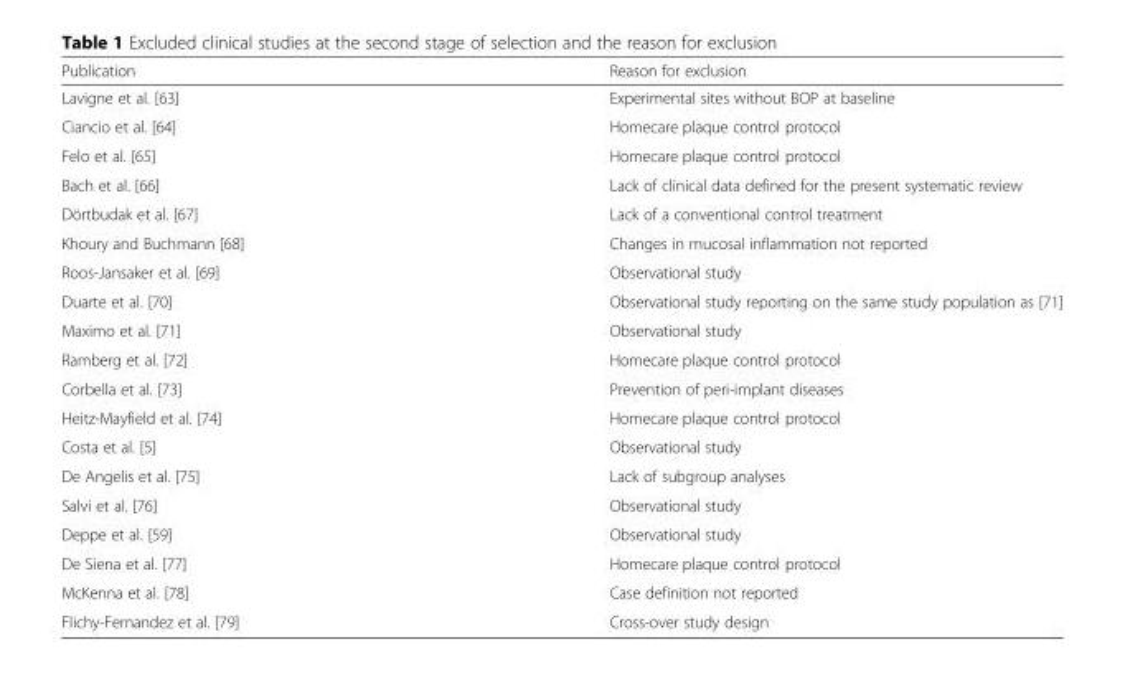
<table><thead><tr><td>Publication</td><td>Reason for exclusion</td></tr></thead><tbody><tr><td>Lavigne et al. [63]</td><td>Experimental sites without BOP at baseline</td></tr><tr><td>Ciancio et al. [64]</td><td>Homecare plaque control protocol</td></tr><tr><td>Felo et al. [65]</td><td>Homecare plaque control protocol</td></tr><tr><td>Bach et al. [66]</td><td>Lack of clinical data defined for the present systematic review</td></tr><tr><td>Dörtbudak et al. [67]</td><td>Lack of a conventional control treatment</td></tr><tr><td>Khoury and Buchmann [68]</td><td>Changes in mucosal inflammation not reported</td></tr><tr><td>Roos-Jansaker et al. [69]</td><td>Observational study</td></tr><tr><td>Duarte et al. [70]</td><td>Observational study reporting on the same study population as [71]</td></tr><tr><td>Maximo et al. [71]</td><td>Observational study</td></tr><tr><td>Ramberg et al. [72]</td><td>Homecare plaque control protocol</td></tr><tr><td>Corbella et al. [73]</td><td>Prevention of peri-implant diseases</td></tr><tr><td>Heitz-Mayfield et al. [74]</td><td>Homecare plaque control protocol</td></tr><tr><td>Costa et al. [5]</td><td>Observational study</td></tr><tr><td>De Angelis et al. [75]</td><td>Lack of subgroup analyses</td></tr><tr><td>Salvi et al. [76]</td><td>Observational study</td></tr><tr><td>Deppe et al. [59]</td><td>Observational study</td></tr><tr><td>De Siena et al. [77]</td><td>Homecare plaque control protocol</td></tr><tr><td>McKenna et al. [78]</td><td>Case definition not reported</td></tr><tr><td>Flichy-Fernandez et al. [79]</td><td>Cross-over study design</td></tr></tbody></table>